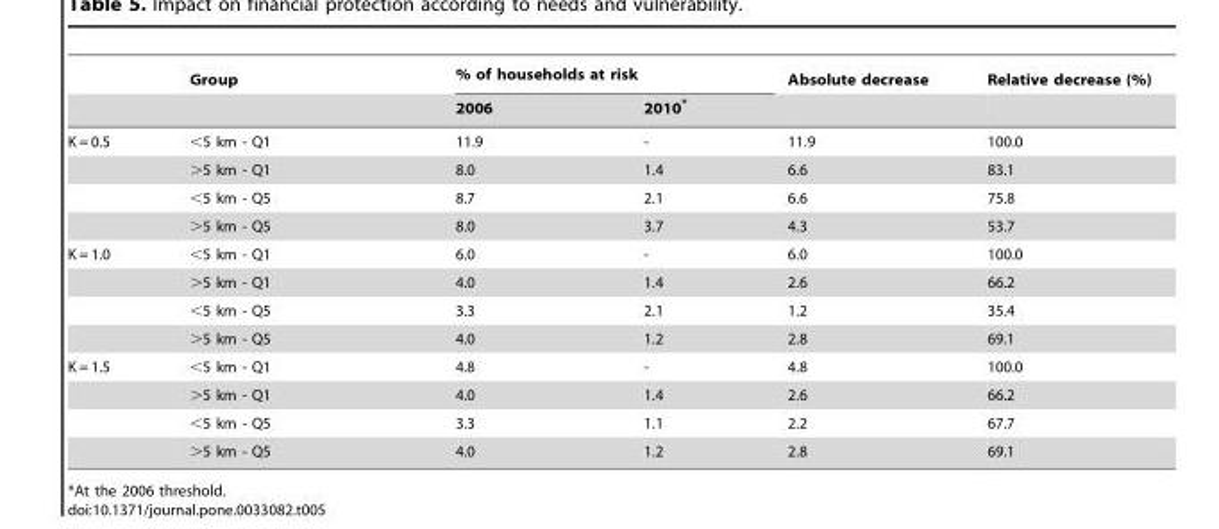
<table><thead><tr><td rowspan="2"></td><td rowspan="2">Group</td><td colspan="2">% of households at risk</td><td rowspan="2">Absolute decrease</td><td rowspan="2">Relative decrease (%)</td></tr><tr><td>2006</td><td>2010*</td></tr></thead><tbody><tr><td rowspan="4">K = 0.5</td><td>&lt;5 km - Q1</td><td>11.9</td><td>-</td><td>11.9</td><td>100.0</td></tr><tr><td>&gt;5 km - Q1</td><td>8.0</td><td>1.4</td><td>6.6</td><td>83.1</td></tr><tr><td>&lt;5 km - Q5</td><td>8.7</td><td>2.1</td><td>6.6</td><td>75.8</td></tr><tr><td>&gt;5 km - Q5</td><td>8.0</td><td>3.7</td><td>4.3</td><td>53.7</td></tr><tr><td rowspan="4">K = 1.0</td><td>&lt;5 km - Q1</td><td>6.0</td><td>-</td><td>6.0</td><td>100.0</td></tr><tr><td>&gt;5 km - Q1</td><td>4.0</td><td>1.4</td><td>2.6</td><td>66.2</td></tr><tr><td>&lt;5 km - Q5</td><td>3.3</td><td>2.1</td><td>1.2</td><td>35.4</td></tr><tr><td>&gt;5 km - Q5</td><td>4.0</td><td>1.2</td><td>2.8</td><td>69.1</td></tr><tr><td rowspan="4">K = 1.5</td><td>&lt;5 km - Q1</td><td>4.8</td><td>-</td><td>4.8</td><td>100.0</td></tr><tr><td>&gt;5 km - Q1</td><td>4.0</td><td>1.4</td><td>2.6</td><td>66.2</td></tr><tr><td>&lt;5 km - Q5</td><td>3.3</td><td>1.1</td><td>2.2</td><td>67.7</td></tr><tr><td>&gt;5 km - Q5</td><td>4.0</td><td>1.2</td><td>2.8</td><td>69.1</td></tr></tbody></table>